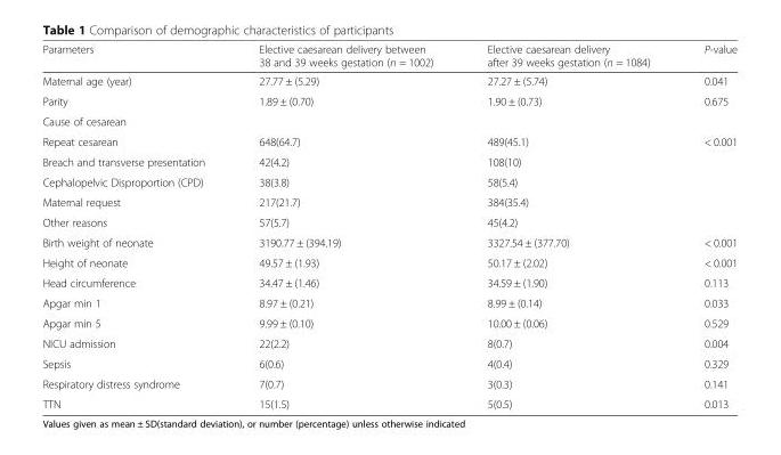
<table><thead><tr><td>Parameters</td><td>Elective caesarean delivery between 38 and 39 weeks gestation (n = 1002)</td><td>Elective caesarean delivery after 39 weeks gestation (n = 1084)</td><td>P-value</td></tr></thead><tbody><tr><td>Maternal age (year)</td><td>27.77 ± (5.29)</td><td>27.27 ± (5.74)</td><td>0.041</td></tr><tr><td>Parity</td><td>1.89 ± (0.70)</td><td>1.90 ± (0.73)</td><td>0.675</td></tr><tr><td colspan="4">Cause of cesarean</td></tr><tr><td>Repeat cesarean</td><td>648(64.7)</td><td>489(45.1)</td><td rowspan="5">&lt; 0.001</td></tr><tr><td>Breach and transverse presentation</td><td>42(4.2)</td><td>108(10)</td></tr><tr><td>Cephalopelvic Disproportion (CPD)</td><td>38(3.8)</td><td>58(5.4)</td></tr><tr><td>Maternal request</td><td>217(21.7)</td><td>384(35.4)</td></tr><tr><td>Other reasons</td><td>57(5.7)</td><td>45(4.2)</td></tr><tr><td>Birth weight of neonate</td><td>3190.77 ± (394.19)</td><td>3327.54 ± (377.70)</td><td>&lt; 0.001</td></tr><tr><td>Height of neonate</td><td>49.57 ± (1.93)</td><td>50.17 ± (2.02)</td><td>&lt; 0.001</td></tr><tr><td>Head circumference</td><td>34.47 ± (1.46)</td><td>34.59 ± (1.90)</td><td>0.113</td></tr><tr><td>Apgar min 1</td><td>8.97 ± (0.21)</td><td>8.99 ± (0.14)</td><td>0.033</td></tr><tr><td>Apgar min 5</td><td>9.99 ± (0.10)</td><td>10.00 ± (0.06)</td><td>0.529</td></tr><tr><td>NICU admission</td><td>22(2.2)</td><td>8(0.7)</td><td>0.004</td></tr><tr><td>Sepsis</td><td>6(0.6)</td><td>4(0.4)</td><td>0.329</td></tr><tr><td>Respiratory distress syndrome</td><td>7(0.7)</td><td>3(0.3)</td><td>0.141</td></tr><tr><td>TTN</td><td>15(1.5)</td><td>5(0.5)</td><td>0.013</td></tr></tbody></table>